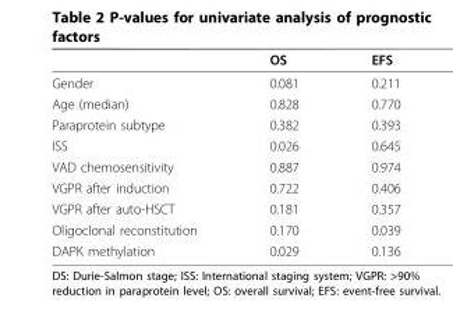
<table><thead><tr><td></td><td>OS</td><td>EFS</td></tr></thead><tbody><tr><td>Gender</td><td>0.081</td><td>0.211</td></tr><tr><td>Age (median)</td><td>0.828</td><td>0.770</td></tr><tr><td>Paraprotein subtype</td><td>0.382</td><td>0.393</td></tr><tr><td>ISS</td><td>0.026</td><td>0.645</td></tr><tr><td>VAD chemosensitivity</td><td>0.887</td><td>0.974</td></tr><tr><td>VGPR after induction</td><td>0.722</td><td>0.406</td></tr><tr><td>VGPR after auto-HSCT</td><td>0.181</td><td>0.357</td></tr><tr><td>Oligoclonal reconstitution</td><td>0.170</td><td>0.039</td></tr><tr><td>DAPK methylation</td><td>0.029</td><td>0.136</td></tr></tbody></table>